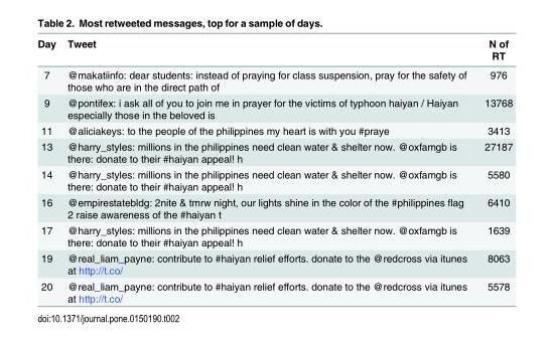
<table><thead><tr><td>Day</td><td>Tweet</td><td>N of RT</td></tr></thead><tbody><tr><td>7</td><td>@makatiinfo: dear students: instead of praying for class suspension, pray for the safety of those who are in the direct path of</td><td>976</td></tr><tr><td>9</td><td>@pontifex: i ask all of you to join me in prayer for the victims of typhoon haiyan / Haiyan especially those in the beloved is</td><td>13768</td></tr><tr><td>11</td><td>@aliciakeys: to the people of the philippines my heart is with you #praye</td><td>3413</td></tr><tr><td>13</td><td>@harry_styles: millions in the philippines need clean water &amp; shelter now. @oxfamgb is there: donate to their #haiyan appeal! h</td><td>27187</td></tr><tr><td>14</td><td>@harry_styles: millions in the philippines need clean water &amp; shelter now. @oxfamgb is there: donate to their #haiyan appeal! h</td><td>5580</td></tr><tr><td>16</td><td>@empirestatebldg: 2nite &amp; tmrw night, our lights shine in the color of the #philippines flag 2 raise awareness of the #haiyan t</td><td>6410</td></tr><tr><td>17</td><td>@harry_styles: millions in the philippines need clean water &amp; shelter now. @oxfamgb is there: donate to their #haiyan appeal! h</td><td>1639</td></tr><tr><td>19</td><td>@real_liam_payne: contribute to #haiyan relief efforts. donate to the @redcross via itunes at http://t.co/</td><td>8063</td></tr><tr><td>20</td><td>@real_liam_payne: contribute to #haiyan relief efforts. donate to the @redcross via itunes at http://t.co/</td><td>5578</td></tr></tbody></table>